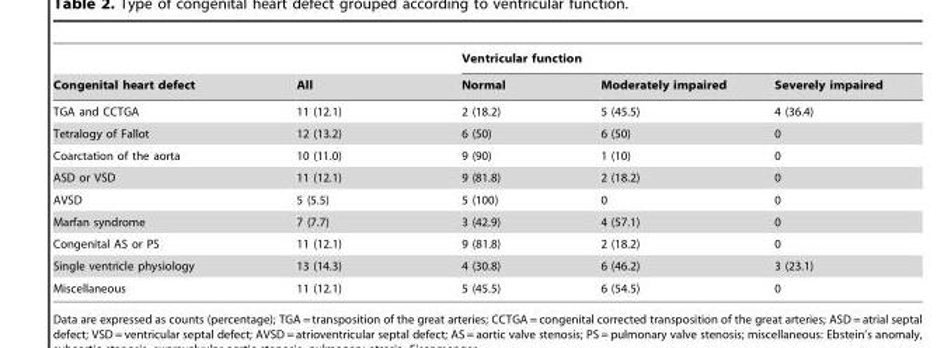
<table><thead><tr><td rowspan="2">Congenital heart defect</td><td rowspan="2">All</td><td colspan="3">Ventricular function</td></tr><tr><td>Normal</td><td>Moderately impaired</td><td>Severely impaired</td></tr></thead><tbody><tr><td>TGA and CCTGA</td><td>11 (12.1)</td><td>2 (18.2)</td><td>5 (45.5)</td><td>4 (36.4)</td></tr><tr><td>Tetralogy of Fallot</td><td>12 (13.2)</td><td>6 (50)</td><td>6 (50)</td><td>0</td></tr><tr><td>Coarctation of the aorta</td><td>10 (11.0)</td><td>9 (90)</td><td>1 (10)</td><td>0</td></tr><tr><td>ASD or VSD</td><td>11 (12.1)</td><td>9 (81.8)</td><td>2 (18.2)</td><td>0</td></tr><tr><td>AVSD</td><td>5 (5.5)</td><td>5 (100)</td><td>0</td><td>0</td></tr><tr><td>Marfan syndrome</td><td>7 (7.7)</td><td>3 (42.9)</td><td>4 (57.1)</td><td>0</td></tr><tr><td>Congenital AS or PS</td><td>11 (12.1)</td><td>9 (81.8)</td><td>2 (18.2)</td><td>0</td></tr><tr><td>Single ventricle physiology</td><td>13 (14.3)</td><td>4 (30.8)</td><td>6 (46.2)</td><td>3 (23.1)</td></tr><tr><td>Miscellaneous</td><td>11 (12.1)</td><td>5 (45.5)</td><td>6 (54.5)</td><td>0</td></tr></tbody></table>